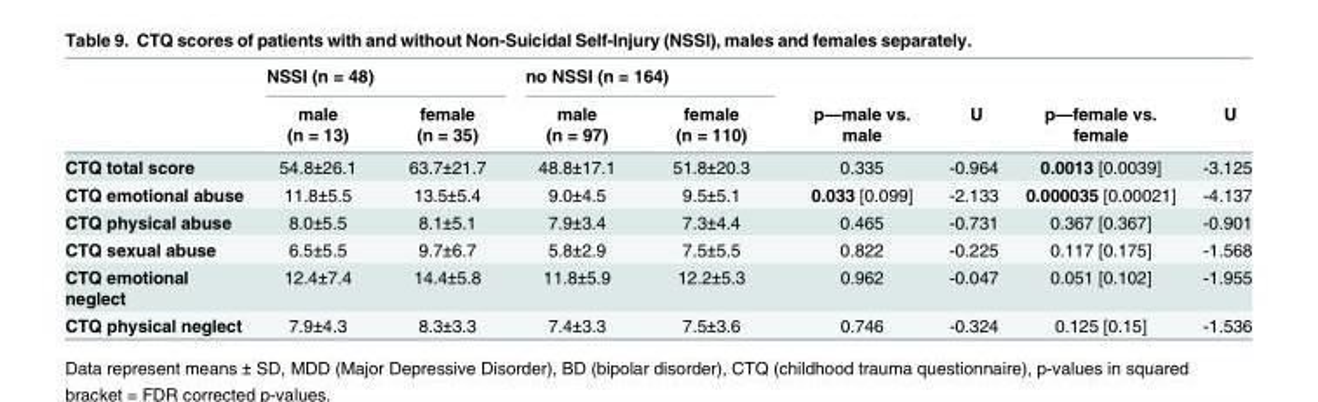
<table><thead><tr><td rowspan="2"></td><td colspan="2">NSSI (n = 48)</td><td colspan="2">no NSSI (n = 164)</td><td rowspan="2">p—male vs. male</td><td rowspan="2">U</td><td rowspan="2">p—female vs. female</td><td rowspan="2">U</td></tr><tr><td>male (n = 13)</td><td>female (n = 35)</td><td>male (n = 97)</td><td>female (n = 110)</td></tr></thead><tbody><tr><td>CTQ total score</td><td>54.8±26.1</td><td>63.7±21.7</td><td>48.8±17.1</td><td>51.8±20.3</td><td>0.335</td><td>-0.964</td><td>0.0013 [0.0039]</td><td>-3.125</td></tr><tr><td>CTQ emotional abuse</td><td>11.8±5.5</td><td>13.5±5.4</td><td>9.0±4.5</td><td>9.5±5.1</td><td>0.033 [0.099]</td><td>-2.133</td><td>0.000035 [0.00021]</td><td>-4.137</td></tr><tr><td>CTQ physical abuse</td><td>8.0±5.5</td><td>8.1±5.1</td><td>7.9±3.4</td><td>7.3±4.4</td><td>0.465</td><td>-0.731</td><td>0.367 [0.367]</td><td>-0.901</td></tr><tr><td>CTQ sexual abuse</td><td>6.5±5.5</td><td>9.7±6.7</td><td>5.8±2.9</td><td>7.5±5.5</td><td>0.822</td><td>-0.225</td><td>0.117 [0.175]</td><td>-1.568</td></tr><tr><td>CTQ emotional neglect</td><td>12.4±7.4</td><td>14.4±5.8</td><td>11.8±5.9</td><td>12.2±5.3</td><td>0.962</td><td>-0.047</td><td>0.051 [0.102]</td><td>-1.955</td></tr><tr><td>CTQ physical neglect</td><td>7.9±4.3</td><td>8.3±3.3</td><td>7.4±3.3</td><td>7.5±3.6</td><td>0.746</td><td>-0.324</td><td>0.125 [0.15]</td><td>-1.536</td></tr></tbody></table>